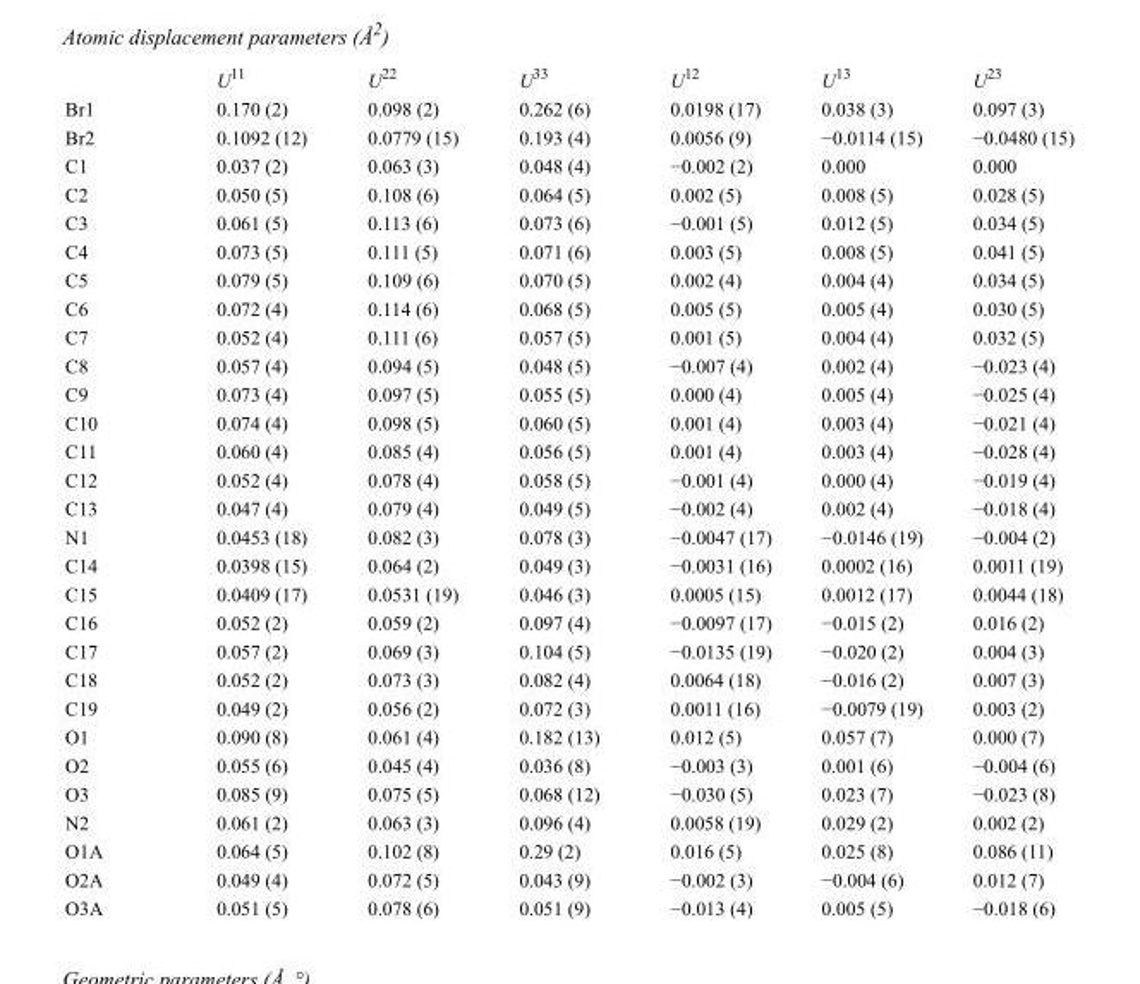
<table><thead><tr><td></td><td>U<sup>11</sup></td><td>U<sup>22</sup></td><td>U<sup>33</sup></td><td>U<sup>12</sup></td><td>U<sup>13</sup></td><td>U<sup>23</sup></td></tr></thead><tbody><tr><td>Br1</td><td>0.170 (2)</td><td>0.098 (2)</td><td>0.262 (6)</td><td>0.0198 (17)</td><td>0.038 (3)</td><td>0.097 (3)</td></tr><tr><td>Br2</td><td>0.1092 (12)</td><td>0.0779 (15)</td><td>0.193 (4)</td><td>0.0056 (9)</td><td>−0.0114 (15)</td><td>−0.0480 (15)</td></tr><tr><td>C1</td><td>0.037 (2)</td><td>0.063 (3)</td><td>0.048 (4)</td><td>−0.002 (2)</td><td>0.000</td><td>0.000</td></tr><tr><td>C2</td><td>0.050 (5)</td><td>0.108 (6)</td><td>0.064 (5)</td><td>0.002 (5)</td><td>0.008 (5)</td><td>0.028 (5)</td></tr><tr><td>C3</td><td>0.061 (5)</td><td>0.113 (6)</td><td>0.073 (6)</td><td>−0.001 (5)</td><td>0.012 (5)</td><td>0.034 (5)</td></tr><tr><td>C4</td><td>0.073 (5)</td><td>0.111 (5)</td><td>0.071 (6)</td><td>0.003 (5)</td><td>0.008 (5)</td><td>0.041 (5)</td></tr><tr><td>C5</td><td>0.079 (5)</td><td>0.109 (6)</td><td>0.070 (5)</td><td>0.002 (4)</td><td>0.004 (4)</td><td>0.034 (5)</td></tr><tr><td>C6</td><td>0.072 (4)</td><td>0.114 (6)</td><td>0.068 (5)</td><td>0.005 (5)</td><td>0.005 (4)</td><td>0.030 (5)</td></tr><tr><td>C7</td><td>0.052 (4)</td><td>0.111 (6)</td><td>0.057 (5)</td><td>0.001 (5)</td><td>0.004 (4)</td><td>0.032 (5)</td></tr><tr><td>C8</td><td>0.057 (4)</td><td>0.094 (5)</td><td>0.048 (5)</td><td>−0.007 (4)</td><td>0.002 (4)</td><td>−0.023 (4)</td></tr><tr><td>C9</td><td>0.073 (4)</td><td>0.097 (5)</td><td>0.055 (5)</td><td>0.000 (4)</td><td>0.005 (4)</td><td>−0.025 (4)</td></tr><tr><td>C10</td><td>0.074 (4)</td><td>0.098 (5)</td><td>0.060 (5)</td><td>0.001 (4)</td><td>0.003 (4)</td><td>−0.021 (4)</td></tr><tr><td>C11</td><td>0.060 (4)</td><td>0.085 (4)</td><td>0.056 (5)</td><td>0.001 (4)</td><td>0.003 (4)</td><td>−0.028 (4)</td></tr><tr><td>C12</td><td>0.052 (4)</td><td>0.078 (4)</td><td>0.058 (5)</td><td>−0.001 (4)</td><td>0.000 (4)</td><td>−0.019 (4)</td></tr><tr><td>C13</td><td>0.047 (4)</td><td>0.079 (4)</td><td>0.049 (5)</td><td>−0.002 (4)</td><td>0.002 (4)</td><td>−0.018 (4)</td></tr><tr><td>N1</td><td>0.0453 (18)</td><td>0.082 (3)</td><td>0.078 (3)</td><td>−0.0047 (17)</td><td>−0.0146 (19)</td><td>−0.004 (2)</td></tr><tr><td>C14</td><td>0.0398 (15)</td><td>0.064 (2)</td><td>0.049 (3)</td><td>−0.0031 (16)</td><td>0.0002 (16)</td><td>0.0011 (19)</td></tr><tr><td>C15</td><td>0.0409 (17)</td><td>0.0531 (19)</td><td>0.046 (3)</td><td>0.0005 (15)</td><td>0.0012 (17)</td><td>0.0044 (18)</td></tr><tr><td>C16</td><td>0.052 (2)</td><td>0.059 (2)</td><td>0.097 (4)</td><td>−0.0097 (17)</td><td>−0.015 (2)</td><td>0.016 (2)</td></tr><tr><td>C17</td><td>0.057 (2)</td><td>0.069 (3)</td><td>0.104 (5)</td><td>−0.0135 (19)</td><td>−0.020 (2)</td><td>0.004 (3)</td></tr><tr><td>C18</td><td>0.052 (2)</td><td>0.073 (3)</td><td>0.082 (4)</td><td>0.0064 (18)</td><td>−0.016 (2)</td><td>0.007 (3)</td></tr><tr><td>C19</td><td>0.049 (2)</td><td>0.056 (2)</td><td>0.072 (3)</td><td>0.0011 (16)</td><td>−0.0079 (19)</td><td>0.003 (2)</td></tr><tr><td>O1</td><td>0.090 (8)</td><td>0.061 (4)</td><td>0.182 (13)</td><td>0.012 (5)</td><td>0.057 (7)</td><td>0.000 (7)</td></tr><tr><td>O2</td><td>0.055 (6)</td><td>0.045 (4)</td><td>0.036 (8)</td><td>−0.003 (3)</td><td>0.001 (6)</td><td>−0.004 (6)</td></tr><tr><td>O3</td><td>0.085 (9)</td><td>0.075 (5)</td><td>0.068 (12)</td><td>−0.030 (5)</td><td>0.023 (7)</td><td>−0.023 (8)</td></tr><tr><td>N2</td><td>0.061 (2)</td><td>0.063 (3)</td><td>0.096 (4)</td><td>0.0058 (19)</td><td>0.029 (2)</td><td>0.002 (2)</td></tr><tr><td>O1A</td><td>0.064 (5)</td><td>0.102 (8)</td><td>0.29 (2)</td><td>0.016 (5)</td><td>0.025 (8)</td><td>0.086 (11)</td></tr><tr><td>O2A</td><td>0.049 (4)</td><td>0.072 (5)</td><td>0.043 (9)</td><td>−0.002 (3)</td><td>−0.004 (6)</td><td>0.012 (7)</td></tr><tr><td>O3A</td><td>0.051 (5)</td><td>0.078 (6)</td><td>0.051 (9)</td><td>−0.013 (4)</td><td>0.005 (5)</td><td>−0.018 (6)</td></tr></tbody></table>